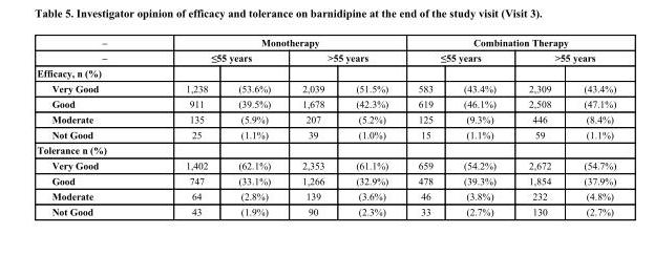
<table><thead><tr><td rowspan="3">– – Efficacy, n (%)</td><td colspan="4">Monotherapy</td><td colspan="4">Combination Therapy</td></tr><tr><td colspan="2">≤55 years</td><td colspan="2">&gt;55 years</td><td colspan="2">≤55 years</td><td colspan="2">&gt;55 years</td></tr><tr><td></td><td></td><td></td><td></td><td></td><td></td><td></td><td></td></tr></thead><tbody><tr><td>Very Good</td><td>1,238</td><td>(53.6%)</td><td>2,039</td><td>(51.5%)</td><td>583</td><td>(43.4%)</td><td>2,309</td><td>(43.4%)</td></tr><tr><td>Good</td><td>911</td><td>(39.5%)</td><td>1,678</td><td>(42.3%)</td><td>619</td><td>(46.1%)</td><td>2,508</td><td>(47.1%)</td></tr><tr><td>Moderate</td><td>135</td><td>(5.9%)</td><td>207</td><td>(5.2%)</td><td>125</td><td>(9.3%)</td><td>446</td><td>(8.4%)</td></tr><tr><td>Not Good</td><td>25</td><td>(1.1%)</td><td>39</td><td>(1.0%)</td><td>15</td><td>(1.1%)</td><td>59</td><td>(1.1%)</td></tr><tr><td colspan="9">Tolerance n (%)</td></tr><tr><td>Very Good</td><td>1,402</td><td>(62.1%)</td><td>2,353</td><td>(61.1%)</td><td>659</td><td>(54.2%)</td><td>2,672</td><td>(54.7%)</td></tr><tr><td>Good</td><td>747</td><td>(33.1%)</td><td>1,266</td><td>(32.9%)</td><td>478</td><td>(39.3%)</td><td>1,854</td><td>(37.9%)</td></tr><tr><td>Moderate</td><td>64</td><td>(2.8%)</td><td>139</td><td>(3.6%)</td><td>46</td><td>(3.8%)</td><td>232</td><td>(4.8%)</td></tr><tr><td>Not Good</td><td>43</td><td>(1.9%)</td><td>90</td><td>(2.3%)</td><td>33</td><td>(2.7%)</td><td>130</td><td>(2.7%)</td></tr></tbody></table>